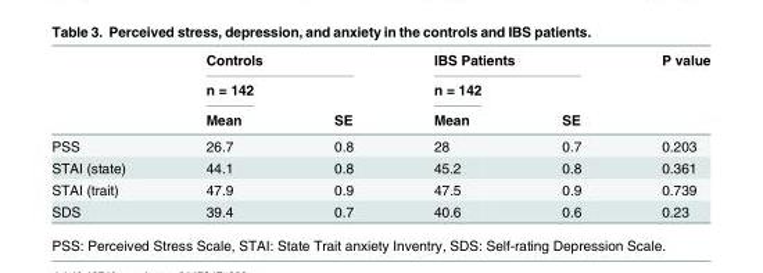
<table><thead><tr><td rowspan="3"></td><td colspan="2">Controls</td><td colspan="2">IBS Patients</td><td rowspan="3">P value</td></tr><tr><td rowspan="2">n = 142 Mean</td><td rowspan="2">SE</td><td rowspan="2">n = 142 Mean</td><td rowspan="2">SE</td></tr><tr></tr></thead><tbody><tr><td>PSS</td><td>26.7</td><td>0.8</td><td>28</td><td>0.7</td><td>0.203</td></tr><tr><td>STAI (state)</td><td>44.1</td><td>0.8</td><td>45.2</td><td>0.8</td><td>0.361</td></tr><tr><td>STAI (trait)</td><td>47.9</td><td>0.9</td><td>47.5</td><td>0.9</td><td>0.739</td></tr><tr><td>SDS</td><td>39.4</td><td>0.7</td><td>40.6</td><td>0.6</td><td>0.23</td></tr></tbody></table>